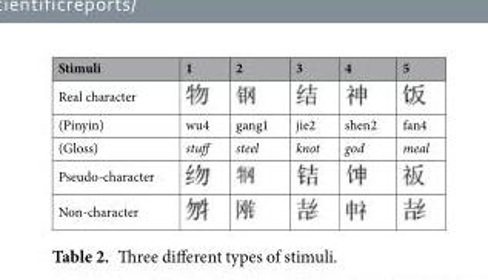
<table><thead><tr><td>Stimuli</td><td>1</td><td>2</td><td>3</td><td>4</td><td>5</td></tr></thead><tbody><tr><td colspan="6">Real character</td></tr><tr><td>(Pinyin)</td><td>wu4</td><td>gang1</td><td>jie2</td><td>shen2</td><td>fan4</td></tr><tr><td>(Gloss)</td><td>stuff</td><td>steel</td><td>knot</td><td>god</td><td>meal</td></tr><tr><td colspan="6">Pseudo-character</td></tr><tr><td>Non-character</td><td></td><td></td><td></td><td></td><td></td></tr></tbody></table>